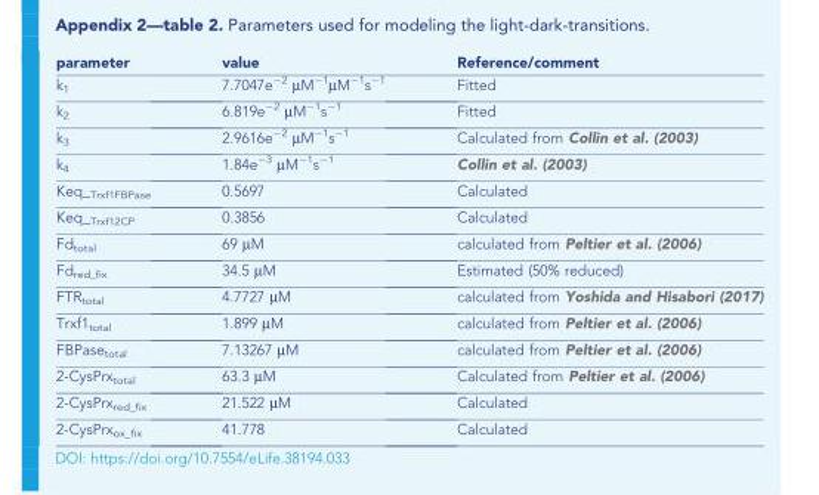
<table><thead><tr><td>parameter</td><td>value</td><td>Reference/comment</td></tr></thead><tbody><tr><td>k<sub>1</sub></td><td>7.7047e<sup>−2</sup> µM<sup>−1</sup>µM<sup>−1</sup>s<sup>−1</sup></td><td>Fitted</td></tr><tr><td>k<sub>2</sub></td><td>6.819e<sup>−2</sup> µM<sup>−1</sup>s<sup>−1</sup></td><td>Fitted</td></tr><tr><td>k<sub>3</sub></td><td>2.9616e<sup>−2</sup> µM<sup>−1</sup>s<sup>−1</sup></td><td>Calculated from Collin et al. (2003)</td></tr><tr><td>k<sub>4</sub></td><td>1.84e<sup>−3</sup> µM<sup>−1</sup>s<sup>−1</sup></td><td>Collin et al. (2003)</td></tr><tr><td>Keq_Trxf1FBPase</td><td>0.5697</td><td>Calculated</td></tr><tr><td>Keq_Trxf12CP</td><td>0.3856</td><td>Calculated</td></tr><tr><td>Fd<sub>total</sub></td><td>69 µM</td><td>calculated from Peltier et al. (2006)</td></tr><tr><td>Fd<sub>red_fix</sub></td><td>34.5 µM</td><td>Estimated (50% reduced)</td></tr><tr><td>FTR<sub>total</sub></td><td>4.7727 µM</td><td>calculated from Yoshida and Hisabori (2017)</td></tr><tr><td>Trxf1<sub>total</sub></td><td>1.899 µM</td><td>calculated from Peltier et al. (2006)</td></tr><tr><td>FBPase<sub>total</sub></td><td>7.13267 µM</td><td>calculated from Peltier et al. (2006)</td></tr><tr><td>2-CysPrx<sub>total</sub></td><td>63.3 µM</td><td>Calculated from Peltier et al. (2006)</td></tr><tr><td>2-CysPrx<sub>red_fix</sub></td><td>21.522 µM</td><td>Calculated</td></tr><tr><td>2-CysPrx<sub>ox_fix</sub></td><td>41.778</td><td>Calculated</td></tr></tbody></table>